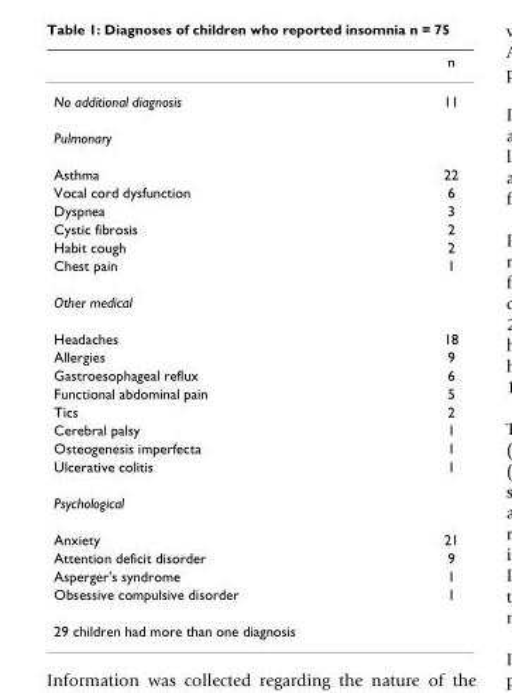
<table><thead><tr><td></td><td>n</td></tr></thead><tbody><tr><td>No additional diagnosis</td><td>11</td></tr><tr><td colspan="2">Pulmonary</td></tr><tr><td>Asthma</td><td>22</td></tr><tr><td>Vocal cord dysfunction</td><td>6</td></tr><tr><td>Dyspnea</td><td>3</td></tr><tr><td>Cystic fibrosis</td><td>2</td></tr><tr><td>Habit cough</td><td>2</td></tr><tr><td>Chest pain</td><td>1</td></tr><tr><td colspan="2">Other medical</td></tr><tr><td>Headaches</td><td>18</td></tr><tr><td>Allergies</td><td>9</td></tr><tr><td>Gastroesophageal reflux</td><td>6</td></tr><tr><td>Functional abdominal pain</td><td>5</td></tr><tr><td>Tics</td><td>2</td></tr><tr><td>Cerebral palsy</td><td>1</td></tr><tr><td>Osteogenesis imperfecta</td><td>1</td></tr><tr><td>Ulcerative colitis</td><td>1</td></tr><tr><td colspan="2">Psychological</td></tr><tr><td>Anxiety</td><td>21</td></tr><tr><td>Attention deficit disorder</td><td>9</td></tr><tr><td>Asperger&#x27;s syndrome</td><td>1</td></tr><tr><td>Obsessive compulsive disorder</td><td>1</td></tr><tr><td>29 children had more than one diagnosis</td><td></td></tr></tbody></table>